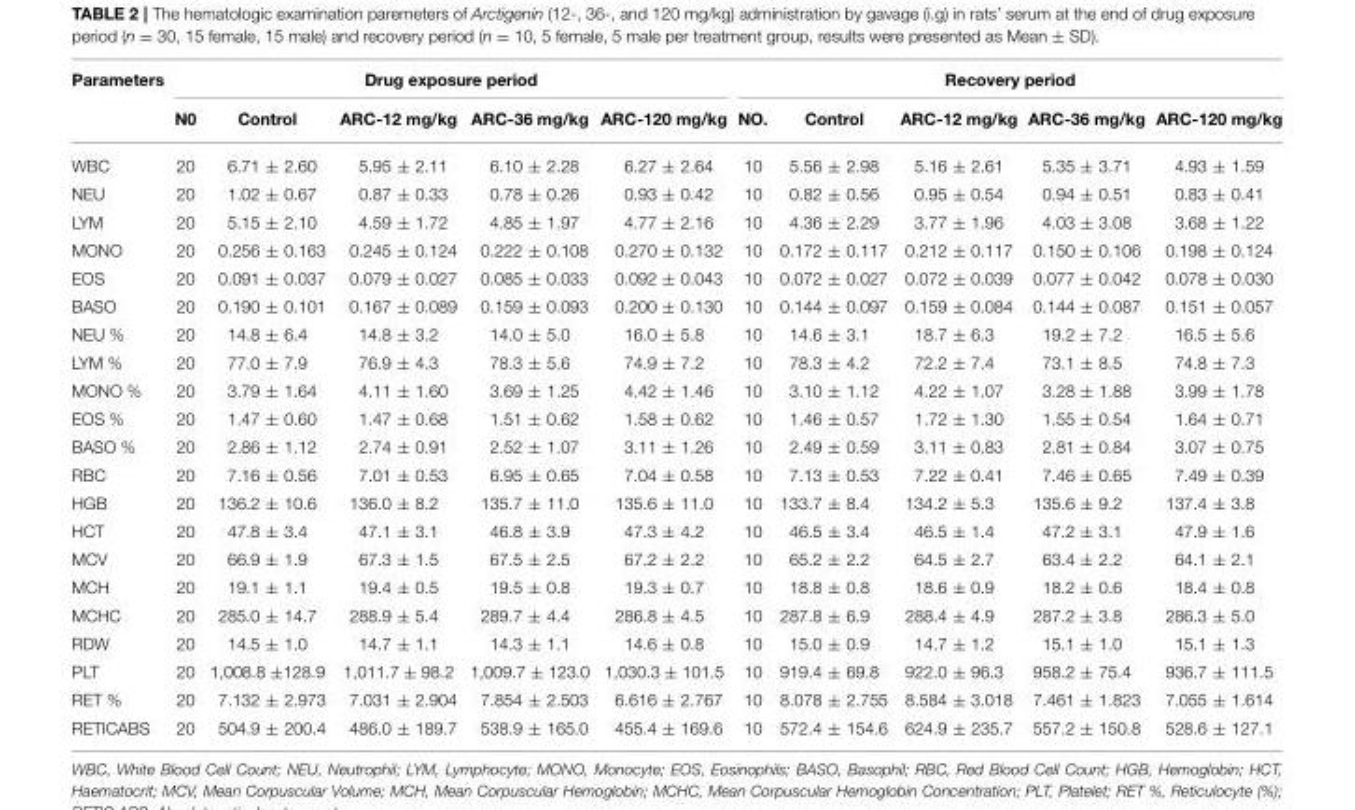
<table><thead><tr><td rowspan="2">Parameters</td><td colspan="5">Drug exposure period</td><td colspan="5">Recovery period</td></tr><tr><td>N0</td><td>Control</td><td>ARC-12 mg/kg</td><td>ARC-36 mg/kg</td><td>ARC-120 mg/kg</td><td>NO.</td><td>Control</td><td>ARC-12 mg/kg</td><td>ARC-36 mg/kg</td><td>ARC-120 mg/kg</td></tr></thead><tbody><tr><td>WBC</td><td>20</td><td>6.71 ± 2.60</td><td>5.95 ± 2.11</td><td>6.10 ± 2.28</td><td>6.27 ± 2.64</td><td>10</td><td>5.56 ± 2.98</td><td>5.16 ± 2.61</td><td>5.35 ± 3.71</td><td>4.93 ± 1.59</td></tr><tr><td>NEU</td><td>20</td><td>1.02 ± 0.67</td><td>0.87 ± 0.33</td><td>0.78 ± 0.26</td><td>0.93 ± 0.42</td><td>10</td><td>0.82 ± 0.56</td><td>0.95 ± 0.54</td><td>0.94 ± 0.51</td><td>0.83 ± 0.41</td></tr><tr><td>LYM</td><td>20</td><td>5.15 ± 2.10</td><td>4.59 ± 1.72</td><td>4.85 ± 1.97</td><td>4.77 ± 2.16</td><td>10</td><td>4.36 ± 2.29</td><td>3.77 ± 1.96</td><td>4.03 ± 3.08</td><td>3.68 ± 1.22</td></tr><tr><td>MONO</td><td>20</td><td>0.256 ± 0.163</td><td>0.245 ± 0.124</td><td>0.222 ± 0.108</td><td>0.270 ± 0.132</td><td>10</td><td>0.172 ± 0.117</td><td>0.212 ± 0.117</td><td>0.150 ± 0.106</td><td>0.198 ± 0.124</td></tr><tr><td>EOS</td><td>20</td><td>0.091 ± 0.037</td><td>0.079 ± 0.027</td><td>0.085 ± 0.033</td><td>0.092 ± 0.043</td><td>10</td><td>0.072 ± 0.027</td><td>0.072 ± 0.039</td><td>0.077 ± 0.042</td><td>0.078 ± 0.030</td></tr><tr><td>BASO</td><td>20</td><td>0.190 ± 0.101</td><td>0.167 ± 0.089</td><td>0.159 ± 0.093</td><td>0.200 ± 0.130</td><td>10</td><td>0.144 ± 0.097</td><td>0.159 ± 0.084</td><td>0.144 ± 0.087</td><td>0.151 ± 0.057</td></tr><tr><td>NEU %</td><td>20</td><td>14.8 ± 6.4</td><td>14.8 ± 3.2</td><td>14.0 ± 5.0</td><td>16.0 ± 5.8</td><td>10</td><td>14.6 ± 3.1</td><td>18.7 ± 6.3</td><td>19.2 ± 7.2</td><td>16.5 ± 5.6</td></tr><tr><td>LYM %</td><td>20</td><td>77.0 ± 7.9</td><td>76.9 ± 4.3</td><td>78.3 ± 5.6</td><td>74.9 ± 7.2</td><td>10</td><td>78.3 ± 4.2</td><td>72.2 ± 7.4</td><td>73.1 ± 8.5</td><td>74.8 ± 7.3</td></tr><tr><td>MONO %</td><td>20</td><td>3.79 ± 1.64</td><td>4.11 ± 1.60</td><td>3.69 ± 1.25</td><td>4.42 ± 1.46</td><td>10</td><td>3.10 ± 1.12</td><td>4.22 ± 1.07</td><td>3.28 ± 1.88</td><td>3.99 ± 1.78</td></tr><tr><td>EOS %</td><td>20</td><td>1.47 ± 0.60</td><td>1.47 ± 0.68</td><td>1.51 ± 0.62</td><td>1.58 ± 0.62</td><td>10</td><td>1.46 ± 0.57</td><td>1.72 ± 1.30</td><td>1.55 ± 0.54</td><td>1.64 ± 0.71</td></tr><tr><td>BASO %</td><td>20</td><td>2.86 ± 1.12</td><td>2.74 ± 0.91</td><td>2.52 ± 1.07</td><td>3.11 ± 1.26</td><td>10</td><td>2.49 ± 0.59</td><td>3.11 ± 0.83</td><td>2.81 ± 0.84</td><td>3.07 ± 0.75</td></tr><tr><td>RBC</td><td>20</td><td>7.16 ± 0.56</td><td>7.01 ± 0.53</td><td>6.95 ± 0.65</td><td>7.04 ± 0.58</td><td>10</td><td>7.13 ± 0.53</td><td>7.22 ± 0.41</td><td>7.46 ± 0.65</td><td>7.49 ± 0.39</td></tr><tr><td>HGB</td><td>20</td><td>136.2 ± 10.6</td><td>136.0 ± 8.2</td><td>135.7 ± 11.0</td><td>135.6 ± 11.0</td><td>10</td><td>133.7 ± 8.4</td><td>134.2 ± 5.3</td><td>135.6 ± 9.2</td><td>137.4 ± 3.8</td></tr><tr><td>HCT</td><td>20</td><td>47.8 ± 3.4</td><td>47.1 ± 3.1</td><td>46.8 ± 3.9</td><td>47.3 ± 4.2</td><td>10</td><td>46.5 ± 3.4</td><td>46.5 ± 1.4</td><td>47.2 ± 3.1</td><td>47.9 ± 1.6</td></tr><tr><td>MCV</td><td>20</td><td>66.9 ± 1.9</td><td>67.3 ± 1.5</td><td>67.5 ± 2.5</td><td>67.2 ± 2.2</td><td>10</td><td>65.2 ± 2.2</td><td>64.5 ± 2.7</td><td>63.4 ± 2.2</td><td>64.1 ± 2.1</td></tr><tr><td>MCH</td><td>20</td><td>19.1 ± 1.1</td><td>19.4 ± 0.5</td><td>19.5 ± 0.8</td><td>19.3 ± 0.7</td><td>10</td><td>18.8 ± 0.8</td><td>18.6 ± 0.9</td><td>18.2 ± 0.6</td><td>18.4 ± 0.8</td></tr><tr><td>MCHC</td><td>20</td><td>285.0 ± 14.7</td><td>288.9 ± 5.4</td><td>289.7 ± 4.4</td><td>286.8 ± 4.5</td><td>10</td><td>287.8 ± 6.9</td><td>288.4 ± 4.9</td><td>287.2 ± 3.8</td><td>286.3 ± 5.0</td></tr><tr><td>RDW</td><td>20</td><td>14.5 ± 1.0</td><td>14.7 ± 1.1</td><td>14.3 ± 1.1</td><td>14.6 ± 0.8</td><td>10</td><td>15.0 ± 0.9</td><td>14.7 ± 1.2</td><td>15.1 ± 1.0</td><td>15.1 ± 1.3</td></tr><tr><td>PLT</td><td>20</td><td>1,008.8 ±128.9</td><td>1,011.7 ± 98.2</td><td>1,009.7 ± 123.0</td><td>1,030.3 ± 101.5</td><td>10</td><td>919.4 ± 69.8</td><td>922.0 ± 96.3</td><td>958.2 ± 75.4</td><td>936.7 ± 111.5</td></tr><tr><td>RET %</td><td>20</td><td>7.132 ± 2.973</td><td>7.031 ± 2.904</td><td>7.854 ± 2.503</td><td>6.616 ± 2.767</td><td>10</td><td>8.078 ± 2.755</td><td>8.584 ± 3.018</td><td>7.461 ± 1.823</td><td>7.055 ± 1.614</td></tr><tr><td>RETICABS</td><td>20</td><td>504.9 ± 200.4</td><td>486.0 ± 189.7</td><td>538.9 ± 165.0</td><td>455.4 ± 169.6</td><td>10</td><td>572.4 ± 154.6</td><td>624.9 ± 235.7</td><td>557.2 ± 150.8</td><td>528.6 ± 127.1</td></tr></tbody></table>